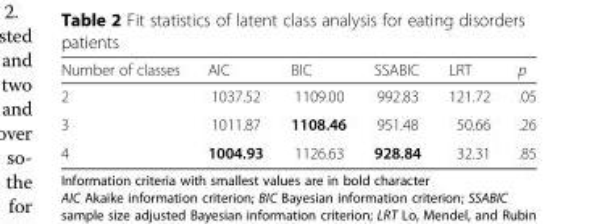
<table><thead><tr><td>Number of classes</td><td>AIC</td><td>BIC</td><td>SSABIC</td><td>LRT</td><td>p</td></tr></thead><tbody><tr><td>2</td><td>1037.52</td><td>1109.00</td><td>992.83</td><td>121.72</td><td>.05</td></tr><tr><td>3</td><td>1011.87</td><td>1108.46</td><td>951.48</td><td>50.66</td><td>.26</td></tr><tr><td>4</td><td>1004.93</td><td>1126.63</td><td>928.84</td><td>32.31</td><td>.85</td></tr></tbody></table>